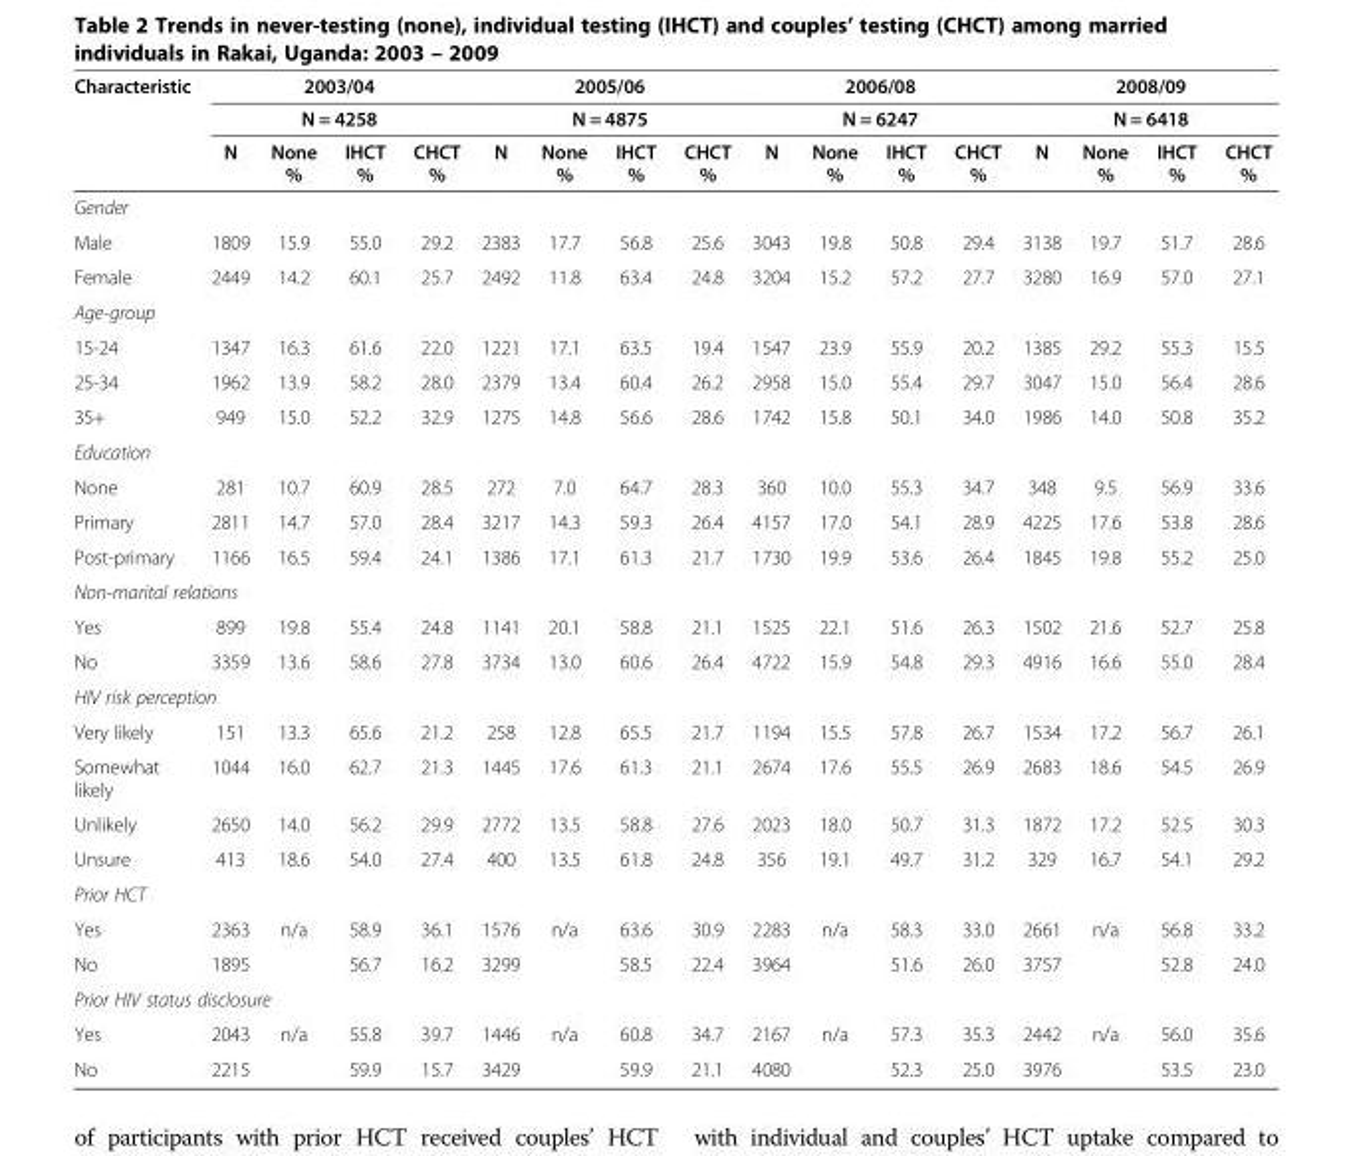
<table><thead><tr><td rowspan="3">Characteristic</td><td rowspan="2" colspan="4">2003/04 N = 4258</td><td rowspan="2" colspan="4">2005/06 N = 4875</td><td rowspan="2" colspan="4">2006/08 N = 6247</td><td rowspan="2" colspan="4">2008/09 N = 6418</td></tr><tr></tr><tr><td>N</td><td>None %</td><td>IHCT %</td><td>CHCT %</td><td>N</td><td>None %</td><td>IHCT %</td><td>CHCT %</td><td>N</td><td>None %</td><td>IHCT %</td><td>CHCT %</td><td>N</td><td>None %</td><td>IHCT %</td><td>CHCT %</td></tr></thead><tbody><tr><td colspan="17">Gender</td></tr><tr><td>Male</td><td>1809</td><td>15.9</td><td>55.0</td><td>29.2</td><td>2383</td><td>17.7</td><td>56.8</td><td>25.6</td><td>3043</td><td>19.8</td><td>50.8</td><td>29.4</td><td>3138</td><td>19.7</td><td>51.7</td><td>28.6</td></tr><tr><td>Female</td><td>2449</td><td>14.2</td><td>60.1</td><td>25.7</td><td>2492</td><td>11.8</td><td>63.4</td><td>24.8</td><td>3204</td><td>15.2</td><td>57.2</td><td>27.7</td><td>3280</td><td>16.9</td><td>57.0</td><td>27.1</td></tr><tr><td colspan="17">Age-group</td></tr><tr><td>15-24</td><td>1347</td><td>16.3</td><td>61.6</td><td>22.0</td><td>1221</td><td>17.1</td><td>63.5</td><td>19.4</td><td>1547</td><td>23.9</td><td>55.9</td><td>20.2</td><td>1385</td><td>29.2</td><td>55.3</td><td>15.5</td></tr><tr><td>25-34</td><td>1962</td><td>13.9</td><td>58.2</td><td>28.0</td><td>2379</td><td>13.4</td><td>60.4</td><td>26.2</td><td>2958</td><td>15.0</td><td>55.4</td><td>29.7</td><td>3047</td><td>15.0</td><td>56.4</td><td>28.6</td></tr><tr><td>35+</td><td>949</td><td>15.0</td><td>52.2</td><td>32.9</td><td>1275</td><td>14.8</td><td>56.6</td><td>28.6</td><td>1742</td><td>15.8</td><td>50.1</td><td>34.0</td><td>1986</td><td>14.0</td><td>50.8</td><td>35.2</td></tr><tr><td colspan="17">Education</td></tr><tr><td>None</td><td>281</td><td>10.7</td><td>60.9</td><td>28.5</td><td>272</td><td>7.0</td><td>64.7</td><td>28.3</td><td>360</td><td>10.0</td><td>55.3</td><td>34.7</td><td>348</td><td>9.5</td><td>56.9</td><td>33.6</td></tr><tr><td>Primary</td><td>2811</td><td>14.7</td><td>57.0</td><td>28.4</td><td>3217</td><td>14.3</td><td>59.3</td><td>26.4</td><td>4157</td><td>17.0</td><td>54.1</td><td>28.9</td><td>4225</td><td>17.6</td><td>53.8</td><td>28.6</td></tr><tr><td>Post-primary</td><td>1166</td><td>16.5</td><td>59.4</td><td>24.1</td><td>1386</td><td>17.1</td><td>61.3</td><td>21.7</td><td>1730</td><td>19.9</td><td>53.6</td><td>26.4</td><td>1845</td><td>19.8</td><td>55.2</td><td>25.0</td></tr><tr><td colspan="17">Non-marital relations</td></tr><tr><td>Yes</td><td>899</td><td>19.8</td><td>55.4</td><td>24.8</td><td>1141</td><td>20.1</td><td>58.8</td><td>21.1</td><td>1525</td><td>22.1</td><td>51.6</td><td>26.3</td><td>1502</td><td>21.6</td><td>52.7</td><td>25.8</td></tr><tr><td>No</td><td>3359</td><td>13.6</td><td>58.6</td><td>27.8</td><td>3734</td><td>13.0</td><td>60.6</td><td>26.4</td><td>4722</td><td>15.9</td><td>54.8</td><td>29.3</td><td>4916</td><td>16.6</td><td>55.0</td><td>28.4</td></tr><tr><td colspan="17">HIV risk perception</td></tr><tr><td>Very likely</td><td>151</td><td>13.3</td><td>65.6</td><td>21.2</td><td>258</td><td>12.8</td><td>65.5</td><td>21.7</td><td>1194</td><td>15.5</td><td>57.8</td><td>26.7</td><td>1534</td><td>17.2</td><td>56.7</td><td>26.1</td></tr><tr><td>Somewhat likely</td><td>1044</td><td>16.0</td><td>62.7</td><td>21.3</td><td>1445</td><td>17.6</td><td>61.3</td><td>21.1</td><td>2674</td><td>17.6</td><td>55.5</td><td>26.9</td><td>2683</td><td>18.6</td><td>54.5</td><td>26.9</td></tr><tr><td>Unlikely</td><td>2650</td><td>14.0</td><td>56.2</td><td>29.9</td><td>2772</td><td>13.5</td><td>58.8</td><td>27.6</td><td>2023</td><td>18.0</td><td>50.7</td><td>31.3</td><td>1872</td><td>17.2</td><td>52.5</td><td>30.3</td></tr><tr><td>Unsure</td><td>413</td><td>18.6</td><td>54.0</td><td>27.4</td><td>400</td><td>13.5</td><td>61.8</td><td>24.8</td><td>356</td><td>19.1</td><td>49.7</td><td>31.2</td><td>329</td><td>16.7</td><td>54.1</td><td>29.2</td></tr><tr><td colspan="17">Prior HCT</td></tr><tr><td>Yes</td><td>2363</td><td rowspan="2">n/a</td><td>58.9</td><td>36.1</td><td>1576</td><td rowspan="2">n/a</td><td>63.6</td><td>30.9</td><td>2283</td><td rowspan="2">n/a</td><td>58.3</td><td>33.0</td><td>2661</td><td rowspan="2">n/a</td><td>56.8</td><td>33.2</td></tr><tr><td>No</td><td>1895</td><td>56.7</td><td>16.2</td><td>3299</td><td>58.5</td><td>22.4</td><td>3964</td><td>51.6</td><td>26.0</td><td>3757</td><td>52.8</td><td>24.0</td></tr><tr><td colspan="17">Prior HIV status disclosure</td></tr><tr><td>Yes</td><td>2043</td><td>n/a</td><td>55.8</td><td>39.7</td><td>1446</td><td>n/a</td><td>60.8</td><td>34.7</td><td>2167</td><td>n/a</td><td>57.3</td><td>35.3</td><td>2442</td><td>n/a</td><td>56.0</td><td>35.6</td></tr><tr><td>No</td><td>2215</td><td></td><td>59.9</td><td>15.7</td><td>3429</td><td></td><td>59.9</td><td>21.1</td><td>4080</td><td></td><td>52.3</td><td>25.0</td><td>3976</td><td></td><td>53.5</td><td>23.0</td></tr></tbody></table>